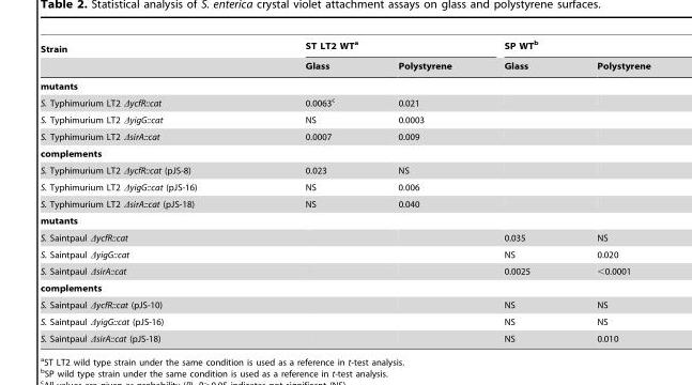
<table><thead><tr><td rowspan="2">Strain</td><td colspan="2">ST LT2 WT<sup>a</sup></td><td colspan="2">SP WT<sup>b</sup></td></tr><tr><td>Glass</td><td>Polystyrene</td><td>Glass</td><td>Polystyrene</td></tr></thead><tbody><tr><td colspan="5">mutants</td></tr><tr><td>S. Typhimurium LT2 ΔycfR::cat</td><td>0.0063<sup>c</sup></td><td>0.021</td><td></td><td></td></tr><tr><td>S. Typhimurium LT2 ΔyigG::cat</td><td>NS</td><td>0.0003</td><td></td><td></td></tr><tr><td>S. Typhimurium LT2 ΔsirA::cat</td><td>0.0007</td><td>0.009</td><td></td><td></td></tr><tr><td colspan="5">complements</td></tr><tr><td>S. Typhimurium LT2 ΔycfR::cat (pJS-8)</td><td>0.023</td><td>NS</td><td></td><td></td></tr><tr><td>S. Typhimurium LT2 ΔyigG::cat (pJS-16)</td><td>NS</td><td>0.006</td><td></td><td></td></tr><tr><td>S. Typhimurium LT2 ΔsirA::cat (pJS-18)</td><td>NS</td><td>0.040</td><td></td><td></td></tr><tr><td colspan="5">mutants</td></tr><tr><td>S. Saintpaul ΔycfR::cat</td><td></td><td></td><td>0.035</td><td>NS</td></tr><tr><td>S. Saintpaul ΔyigG::cat</td><td></td><td></td><td>NS</td><td>0.020</td></tr><tr><td>S. Saintpaul ΔsirA::cat</td><td></td><td></td><td>0.0025</td><td>&lt;0.0001</td></tr><tr><td colspan="5">complements</td></tr><tr><td>S. Saintpaul ΔycfR::cat (pJS-10)</td><td></td><td></td><td>NS</td><td>NS</td></tr><tr><td>S. Saintpaul ΔyigG::cat (pJS-16)</td><td></td><td></td><td>NS</td><td>NS</td></tr><tr><td>S. Saintpaul ΔsirA::cat (pJS-18)</td><td></td><td></td><td>NS</td><td>0.010</td></tr></tbody></table>